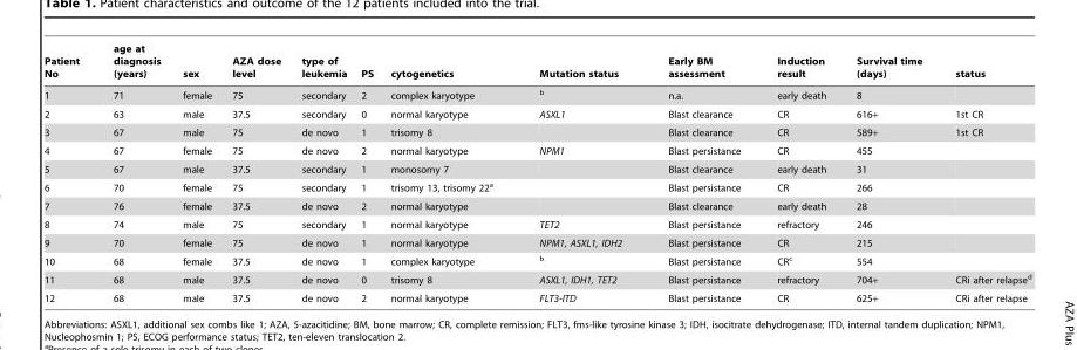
<table><thead><tr><td>Patient No</td><td>age at diagnosis (years)</td><td>sex</td><td>AZA dose level</td><td>type of leukemia</td><td>PS</td><td>cytogenetics</td><td>Mutation status</td><td>Early BM assessment</td><td>Induction result</td><td>Survival time (days)</td><td>status</td></tr></thead><tbody><tr><td>1</td><td>71</td><td>female</td><td>75</td><td>secondary</td><td>2</td><td>complex karyotype</td><td>b</td><td>n.a.</td><td>early death</td><td>8</td><td></td></tr><tr><td>2</td><td>63</td><td>male</td><td>37.5</td><td>secondary</td><td>0</td><td>normal karyotype</td><td>ASXL1</td><td>Blast clearance</td><td>CR</td><td>616+</td><td>1st CR</td></tr><tr><td>3</td><td>67</td><td>male</td><td>75</td><td>de novo</td><td>1</td><td>trisomy 8</td><td></td><td>Blast clearance</td><td>CR</td><td>589+</td><td>1st CR</td></tr><tr><td>4</td><td>67</td><td>female</td><td>75</td><td>de novo</td><td>2</td><td>normal karyotype</td><td>NPM1</td><td>Blast persistance</td><td>CR</td><td>455</td><td></td></tr><tr><td>5</td><td>67</td><td>male</td><td>37.5</td><td>secondary</td><td>1</td><td>monosomy 7</td><td></td><td>Blast clearance</td><td>early death</td><td>31</td><td></td></tr><tr><td>6</td><td>70</td><td>female</td><td>75</td><td>secondary</td><td>1</td><td>trisomy 13, trisomy 22<sup>a</sup></td><td></td><td>Blast persistance</td><td>CR</td><td>266</td><td></td></tr><tr><td>7</td><td>76</td><td>female</td><td>37.5</td><td>de novo</td><td>2</td><td>normal karyotype</td><td></td><td>Blast clearance</td><td>early death</td><td>28</td><td></td></tr><tr><td>8</td><td>74</td><td>male</td><td>75</td><td>secondary</td><td>1</td><td>normal karyotype</td><td>TET2</td><td>Blast persistance</td><td>refractory</td><td>246</td><td></td></tr><tr><td>9</td><td>70</td><td>female</td><td>75</td><td>de novo</td><td>1</td><td>normal karyotype</td><td>NPM1, ASXL1, IDH2</td><td>Blast persistance</td><td>CR</td><td>215</td><td></td></tr><tr><td>10</td><td>68</td><td>female</td><td>37.5</td><td>de novo</td><td>1</td><td>complex karyotype</td><td>b</td><td>Blast persistance</td><td>CR<sup>c</sup></td><td>554</td><td></td></tr><tr><td>11</td><td>68</td><td>male</td><td>37.5</td><td>de novo</td><td>0</td><td>trisomy 8</td><td>ASXL1, IDH1, TET2</td><td>Blast persistance</td><td>refractory</td><td>704+</td><td>CRi after relapse<sup>d</sup></td></tr><tr><td>12</td><td>68</td><td>male</td><td>37.5</td><td>de novo</td><td>2</td><td>normal karyotype</td><td>FLT3-ITD</td><td>Blast persistance</td><td>CR</td><td>625+</td><td>CRi after relapse</td></tr></tbody></table>